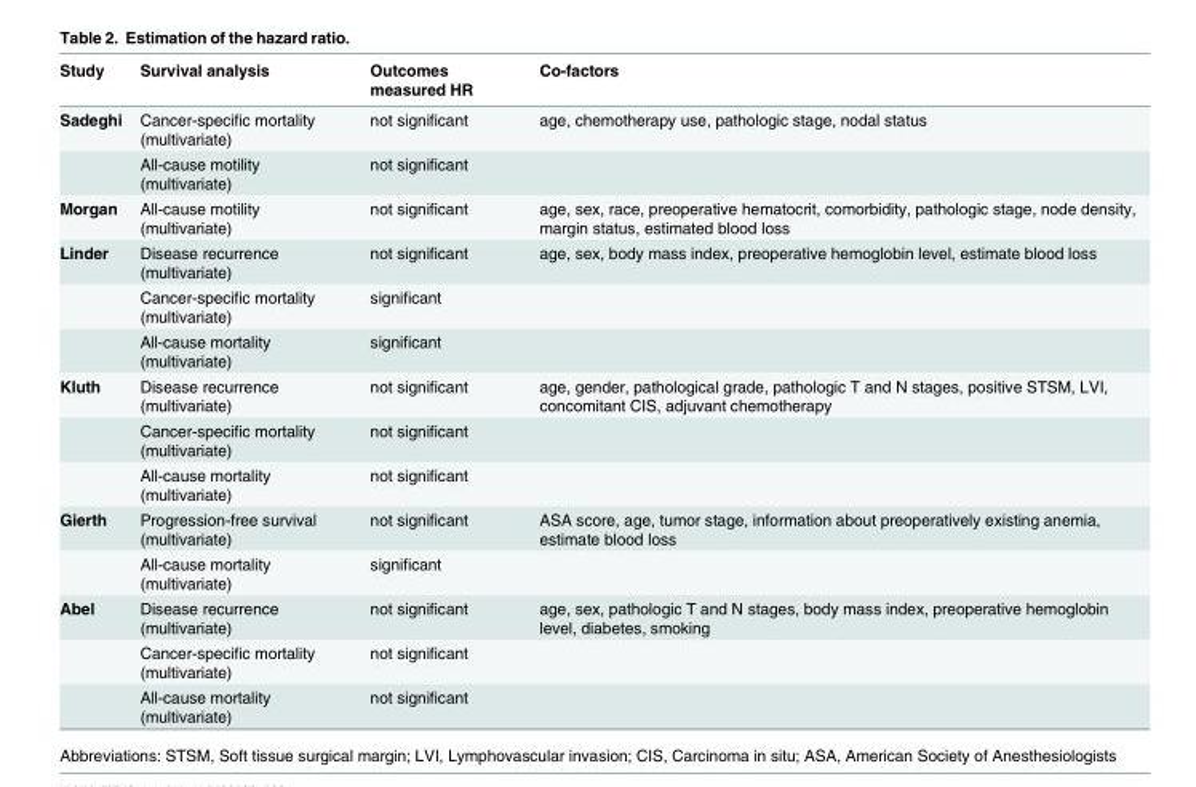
<table><thead><tr><td>Study</td><td>Survival analysis</td><td>Outcomes measured HR</td><td>Co-factors</td></tr></thead><tbody><tr><td rowspan="2">Sadeghi</td><td>Cancer-specific mortality (multivariate)</td><td>not significant</td><td>age, chemotherapy use, pathologic stage, nodal status</td></tr><tr><td>All-cause motility (multivariate)</td><td>not significant</td><td></td></tr><tr><td>Morgan</td><td>All-cause motility (multivariate)</td><td>not significant</td><td>age, sex, race, preoperative hematocrit, comorbidity, pathologic stage, node density, margin status, estimated blood loss</td></tr><tr><td rowspan="3">Linder</td><td>Disease recurrence (multivariate)</td><td>not significant</td><td>age, sex, body mass index, preoperative hemoglobin level, estimate blood loss</td></tr><tr><td>Cancer-specific mortality (multivariate)</td><td>significant</td><td></td></tr><tr><td>All-cause mortality (multivariate)</td><td>significant</td><td></td></tr><tr><td rowspan="3">Kluth</td><td>Disease recurrence (multivariate)</td><td>not significant</td><td>age, gender, pathological grade, pathologic T and N stages, positive STSM, LVI, concomitant CIS, adjuvant chemotherapy</td></tr><tr><td>Cancer-specific mortality (multivariate)</td><td>not significant</td><td></td></tr><tr><td>All-cause mortality (multivariate)</td><td>not significant</td><td></td></tr><tr><td rowspan="2">Gierth</td><td>Progression-free survival (multivariate)</td><td>not significant</td><td>ASA score, age, tumor stage, information about preoperatively existing anemia, estimate blood loss</td></tr><tr><td>All-cause mortality (multivariate)</td><td>significant</td><td></td></tr><tr><td rowspan="3">Abel</td><td>Disease recurrence (multivariate)</td><td>not significant</td><td>age, sex, pathologic T and N stages, body mass index, preoperative hemoglobin level, diabetes, smoking</td></tr><tr><td>Cancer-specific mortality (multivariate)</td><td>not significant</td><td></td></tr><tr><td>All-cause mortality (multivariate)</td><td>not significant</td><td></td></tr></tbody></table>